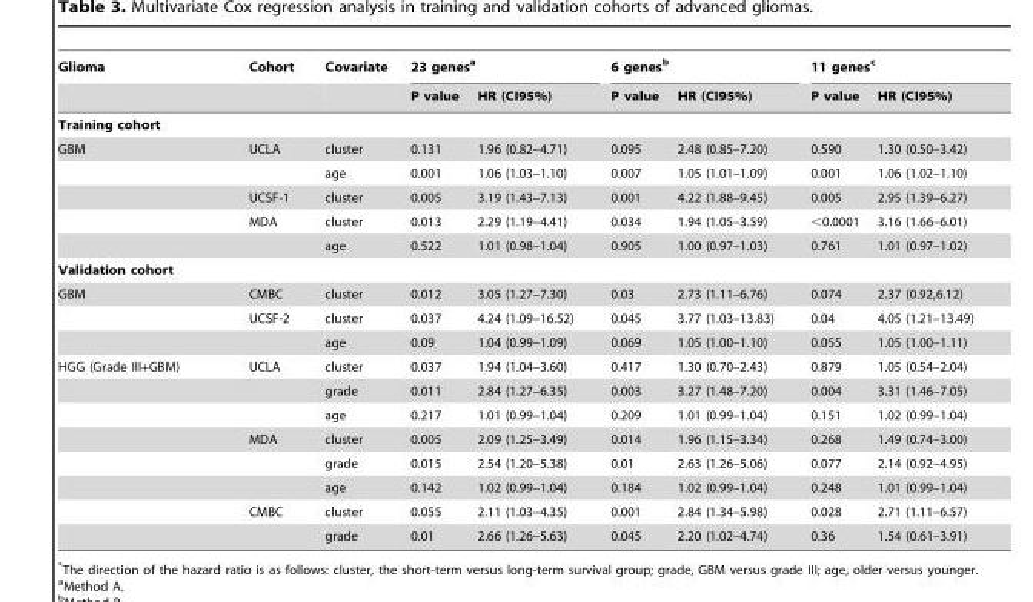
<table><thead><tr><td rowspan="2">Glioma</td><td rowspan="2">Cohort</td><td rowspan="2">Covariate</td><td colspan="2">23 genes<sup>a</sup></td><td colspan="2">6 genes<sup>b</sup></td><td colspan="2">11 genes<sup>c</sup></td></tr><tr><td>P value</td><td>HR (CI95%)</td><td>P value</td><td>HR (CI95%)</td><td>P value</td><td>HR (CI95%)</td></tr></thead><tbody><tr><td colspan="9">Training cohort</td></tr><tr><td rowspan="5">GBM</td><td>UCLA</td><td>cluster</td><td>0.131</td><td>1.96 (0.82–4.71)</td><td>0.095</td><td>2.48 (0.85–7.20)</td><td>0.590</td><td>1.30 (0.50–3.42)</td></tr><tr><td></td><td>age</td><td>0.001</td><td>1.06 (1.03–1.10)</td><td>0.007</td><td>1.05 (1.01–1.09)</td><td>0.001</td><td>1.06 (1.02–1.10)</td></tr><tr><td>UCSF-1</td><td>cluster</td><td>0.005</td><td>3.19 (1.43–7.13)</td><td>0.001</td><td>4.22 (1.88–9.45)</td><td>0.005</td><td>2.95 (1.39–6.27)</td></tr><tr><td>MDA</td><td>cluster</td><td>0.013</td><td>2.29 (1.19–4.41)</td><td>0.034</td><td>1.94 (1.05–3.59)</td><td>&lt;0.0001</td><td>3.16 (1.66–6.01)</td></tr><tr><td></td><td>age</td><td>0.522</td><td>1.01 (0.98–1.04)</td><td>0.905</td><td>1.00 (0.97–1.03)</td><td>0.761</td><td>1.01 (0.97–1.02)</td></tr><tr><td colspan="9">Validation cohort</td></tr><tr><td rowspan="3">GBM</td><td>CMBC</td><td>cluster</td><td>0.012</td><td>3.05 (1.27–7.30)</td><td>0.03</td><td>2.73 (1.11–6.76)</td><td>0.074</td><td>2.37 (0.92,6.12)</td></tr><tr><td>UCSF-2</td><td>cluster</td><td>0.037</td><td>4.24 (1.09–16.52)</td><td>0.045</td><td>3.77 (1.03–13.83)</td><td>0.04</td><td>4.05 (1.21–13.49)</td></tr><tr><td></td><td>age</td><td>0.09</td><td>1.04 (0.99–1.09)</td><td>0.069</td><td>1.05 (1.00–1.10)</td><td>0.055</td><td>1.05 (1.00–1.11)</td></tr><tr><td rowspan="8">HGG (Grade III+GBM)</td><td>UCLA</td><td>cluster</td><td>0.037</td><td>1.94 (1.04–3.60)</td><td>0.417</td><td>1.30 (0.70–2.43)</td><td>0.879</td><td>1.05 (0.54–2.04)</td></tr><tr><td></td><td>grade</td><td>0.011</td><td>2.84 (1.27–6.35)</td><td>0.003</td><td>3.27 (1.48–7.20)</td><td>0.004</td><td>3.31 (1.46–7.05)</td></tr><tr><td></td><td>age</td><td>0.217</td><td>1.01 (0.99–1.04)</td><td>0.209</td><td>1.01 (0.99–1.04)</td><td>0.151</td><td>1.02 (0.99–1.04)</td></tr><tr><td>MDA</td><td>cluster</td><td>0.005</td><td>2.09 (1.25–3.49)</td><td>0.014</td><td>1.96 (1.15–3.34)</td><td>0.268</td><td>1.49 (0.74–3.00)</td></tr><tr><td></td><td>grade</td><td>0.015</td><td>2.54 (1.20–5.38)</td><td>0.01</td><td>2.63 (1.26–5.06)</td><td>0.077</td><td>2.14 (0.92–4.95)</td></tr><tr><td></td><td>age</td><td>0.142</td><td>1.02 (0.99–1.04)</td><td>0.184</td><td>1.02 (0.99–1.04)</td><td>0.248</td><td>1.01 (0.99–1.04)</td></tr><tr><td>CMBC</td><td>cluster</td><td>0.055</td><td>2.11 (1.03–4.35)</td><td>0.001</td><td>2.84 (1.34–5.98)</td><td>0.028</td><td>2.71 (1.11–6.57)</td></tr><tr><td></td><td>grade</td><td>0.01</td><td>2.66 (1.26–5.63)</td><td>0.045</td><td>2.20 (1.02–4.74)</td><td>0.36</td><td>1.54 (0.61–3.91)</td></tr></tbody></table>